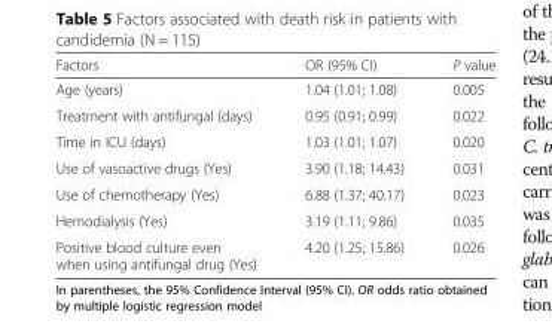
<table><thead><tr><td>Factors</td><td>OR (95% CI)</td><td>P value</td></tr></thead><tbody><tr><td>Age (years)</td><td>1.04 (1.01; 1.08)</td><td>0.005</td></tr><tr><td>Treatment with antifungal (days)</td><td>0.95 (0.91; 0.99)</td><td>0.022</td></tr><tr><td>Time in ICU (days)</td><td>1.03 (1.01; 1.07)</td><td>0.020</td></tr><tr><td>Use of vasoactive drugs (Yes)</td><td>3.90 (1.18; 14.43)</td><td>0.031</td></tr><tr><td>Use of chemotherapy (Yes)</td><td>6.88 (1.37; 40.17)</td><td>0.023</td></tr><tr><td>Hemodialysis (Yes)</td><td>3.19 (1.11; 9.86)</td><td>0.035</td></tr><tr><td>Positive blood culture even when using antifungal drug (Yes)</td><td>4.20 (1.25; 15.86)</td><td>0.026</td></tr></tbody></table>